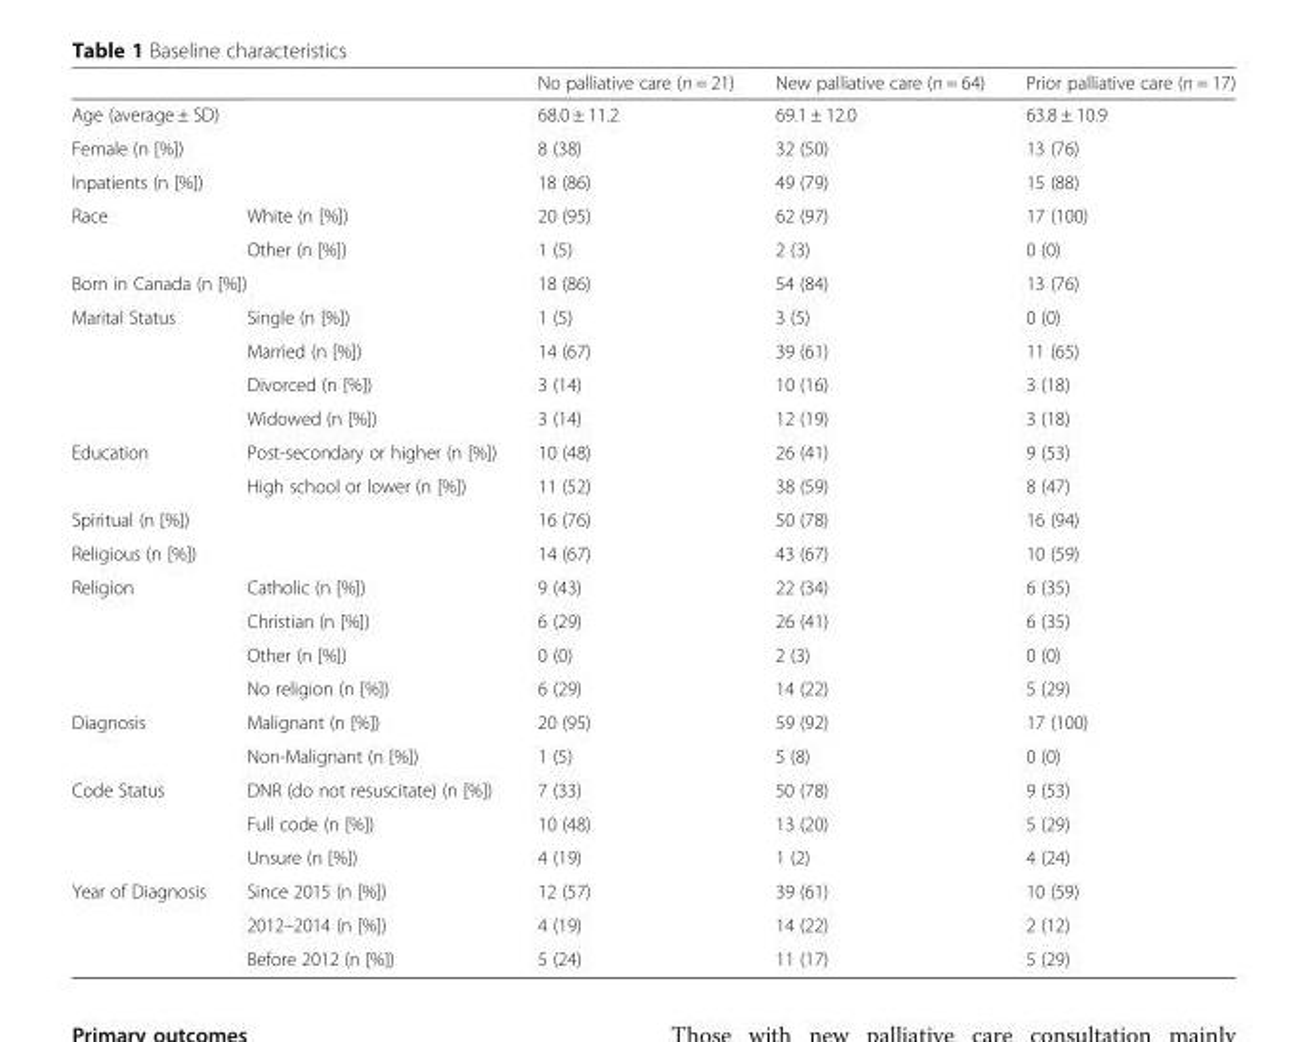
<table><thead><tr><td></td><td></td><td>No palliative care (n = 21)</td><td>New palliative care (n = 64)</td><td>Prior palliative care (n = 17)</td></tr></thead><tbody><tr><td colspan="2">Age (average ± SD)</td><td>68.0 ± 11.2</td><td>69.1 ± 12.0</td><td>63.8 ± 10.9</td></tr><tr><td colspan="2">Female (n [%])</td><td>8 (38)</td><td>32 (50)</td><td>13 (76)</td></tr><tr><td colspan="2">Inpatients (n [%])</td><td>18 (86)</td><td>49 (79)</td><td>15 (88)</td></tr><tr><td rowspan="2">Race</td><td>White (n [%])</td><td>20 (95)</td><td>62 (97)</td><td>17 (100)</td></tr><tr><td>Other (n [%])</td><td>1 (5)</td><td>2 (3)</td><td>0 (0)</td></tr><tr><td colspan="2">Born in Canada (n [%])</td><td>18 (86)</td><td>54 (84)</td><td>13 (76)</td></tr><tr><td rowspan="4">Marital Status</td><td>Single (n [%])</td><td>1 (5)</td><td>3 (5)</td><td>0 (0)</td></tr><tr><td>Married (n [%])</td><td>14 (67)</td><td>39 (61)</td><td>11 (65)</td></tr><tr><td>Divorced (n [%])</td><td>3 (14)</td><td>10 (16)</td><td>3 (18)</td></tr><tr><td>Widowed (n [%])</td><td>3 (14)</td><td>12 (19)</td><td>3 (18)</td></tr><tr><td rowspan="2">Education</td><td>Post-secondary or higher (n [%])</td><td>10 (48)</td><td>26 (41)</td><td>9 (53)</td></tr><tr><td>High school or lower (n [%])</td><td>11 (52)</td><td>38 (59)</td><td>8 (47)</td></tr><tr><td colspan="2">Spiritual (n [%])</td><td>16 (76)</td><td>50 (78)</td><td>16 (94)</td></tr><tr><td colspan="2">Religious (n [%])</td><td>14 (67)</td><td>43 (67)</td><td>10 (59)</td></tr><tr><td rowspan="4">Religion</td><td>Catholic (n [%])</td><td>9 (43)</td><td>22 (34)</td><td>6 (35)</td></tr><tr><td>Christian (n [%])</td><td>6 (29)</td><td>26 (41)</td><td>6 (35)</td></tr><tr><td>Other (n [%])</td><td>0 (0)</td><td>2 (3)</td><td>0 (0)</td></tr><tr><td>No religion (n [%])</td><td>6 (29)</td><td>14 (22)</td><td>5 (29)</td></tr><tr><td rowspan="2">Diagnosis</td><td>Malignant (n [%])</td><td>20 (95)</td><td>59 (92)</td><td>17 (100)</td></tr><tr><td>Non-Malignant (n [%])</td><td>1 (5)</td><td>5 (8)</td><td>0 (0)</td></tr><tr><td rowspan="3">Code Status</td><td>DNR (do not resuscitate) (n [%])</td><td>7 (33)</td><td>50 (78)</td><td>9 (53)</td></tr><tr><td>Full code (n [%])</td><td>10 (48)</td><td>13 (20)</td><td>5 (29)</td></tr><tr><td>Unsure (n [%])</td><td>4 (19)</td><td>1 (2)</td><td>4 (24)</td></tr><tr><td rowspan="3">Year of Diagnosis</td><td>Since 2015 (n [%])</td><td>12 (57)</td><td>39 (61)</td><td>10 (59)</td></tr><tr><td>2012–2014 (n [%])</td><td>4 (19)</td><td>14 (22)</td><td>2 (12)</td></tr><tr><td>Before 2012 (n [%])</td><td>5 (24)</td><td>11 (17)</td><td>5 (29)</td></tr></tbody></table>